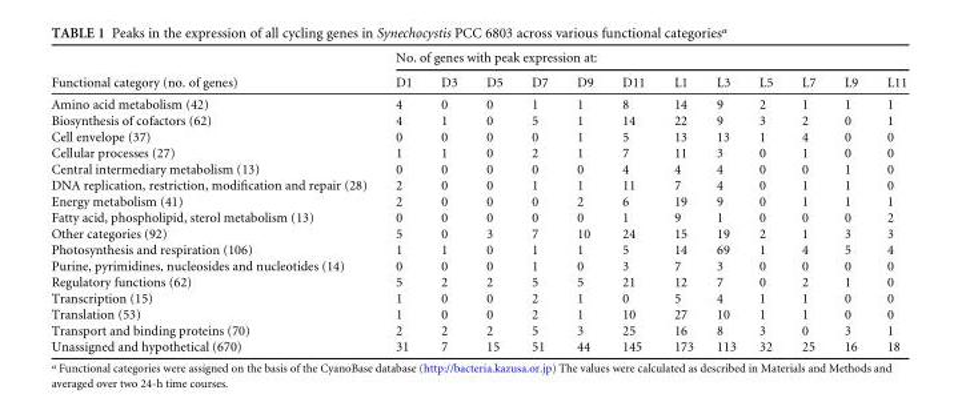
<table><thead><tr><td rowspan="2">Functional category (no. of genes)</td><td colspan="12">No. of genes with peak expression at:</td></tr><tr><td>D1</td><td>D3</td><td>D5</td><td>D7</td><td>D9</td><td>D11</td><td>L1</td><td>L3</td><td>L5</td><td>L7</td><td>L9</td><td>L11</td></tr></thead><tbody><tr><td>Amino acid metabolism (42)</td><td>4</td><td>0</td><td>0</td><td>1</td><td>1</td><td>8</td><td>14</td><td>9</td><td>2</td><td>1</td><td>1</td><td>1</td></tr><tr><td>Biosynthesis of cofactors (62)</td><td>4</td><td>1</td><td>0</td><td>5</td><td>1</td><td>14</td><td>22</td><td>9</td><td>3</td><td>2</td><td>0</td><td>1</td></tr><tr><td>Cell envelope (37)</td><td>0</td><td>0</td><td>0</td><td>0</td><td>1</td><td>5</td><td>13</td><td>13</td><td>1</td><td>4</td><td>0</td><td>0</td></tr><tr><td>Cellular processes (27)</td><td>1</td><td>1</td><td>0</td><td>2</td><td>1</td><td>7</td><td>11</td><td>3</td><td>0</td><td>1</td><td>0</td><td>0</td></tr><tr><td>Central intermediary metabolism (13)</td><td>0</td><td>0</td><td>0</td><td>0</td><td>0</td><td>4</td><td>4</td><td>4</td><td>0</td><td>0</td><td>1</td><td>0</td></tr><tr><td>DNA replication, restriction, modification and repair (28)</td><td>2</td><td>0</td><td>0</td><td>1</td><td>1</td><td>11</td><td>7</td><td>4</td><td>0</td><td>1</td><td>1</td><td>0</td></tr><tr><td>Energy metabolism (41)</td><td>2</td><td>0</td><td>0</td><td>0</td><td>2</td><td>6</td><td>19</td><td>9</td><td>0</td><td>1</td><td>1</td><td>1</td></tr><tr><td>Fatty acid, phospholipid, sterol metabolism (13)</td><td>0</td><td>0</td><td>0</td><td>0</td><td>0</td><td>1</td><td>9</td><td>1</td><td>0</td><td>0</td><td>0</td><td>2</td></tr><tr><td>Other categories (92)</td><td>5</td><td>0</td><td>3</td><td>7</td><td>10</td><td>24</td><td>15</td><td>19</td><td>2</td><td>1</td><td>3</td><td>3</td></tr><tr><td>Photosynthesis and respiration (106)</td><td>1</td><td>1</td><td>0</td><td>1</td><td>1</td><td>5</td><td>14</td><td>69</td><td>1</td><td>4</td><td>5</td><td>4</td></tr><tr><td>Purine, pyrimidines, nucleosides and nucleotides (14)</td><td>0</td><td>0</td><td>0</td><td>1</td><td>0</td><td>3</td><td>7</td><td>3</td><td>0</td><td>0</td><td>0</td><td>0</td></tr><tr><td>Regulatory functions (62)</td><td>5</td><td>2</td><td>2</td><td>5</td><td>5</td><td>21</td><td>12</td><td>7</td><td>0</td><td>2</td><td>1</td><td>0</td></tr><tr><td>Transcription (15)</td><td>1</td><td>0</td><td>0</td><td>2</td><td>1</td><td>0</td><td>5</td><td>4</td><td>1</td><td>1</td><td>0</td><td>0</td></tr><tr><td>Translation (53)</td><td>1</td><td>0</td><td>0</td><td>2</td><td>1</td><td>10</td><td>27</td><td>10</td><td>1</td><td>1</td><td>0</td><td>0</td></tr><tr><td>Transport and binding proteins (70)</td><td>2</td><td>2</td><td>2</td><td>5</td><td>3</td><td>25</td><td>16</td><td>8</td><td>3</td><td>0</td><td>3</td><td>1</td></tr><tr><td>Unassigned and hypothetical (670)</td><td>31</td><td>7</td><td>15</td><td>51</td><td>44</td><td>145</td><td>173</td><td>113</td><td>32</td><td>25</td><td>16</td><td>18</td></tr></tbody></table>